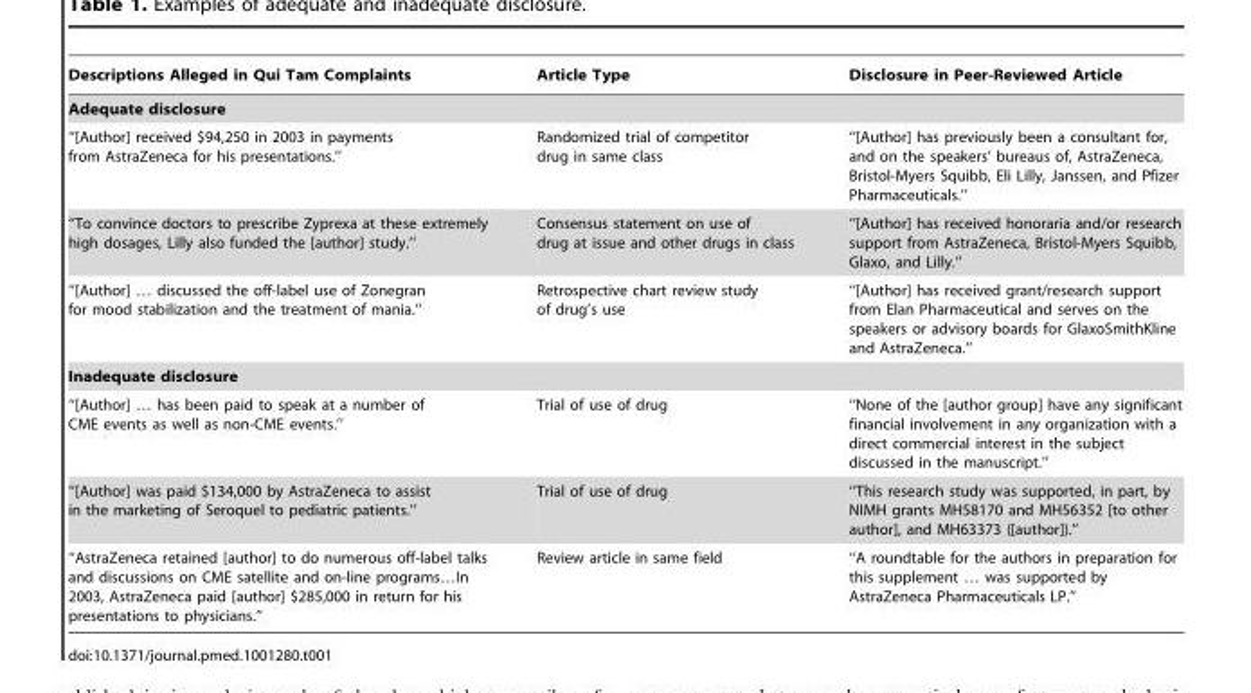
<table><thead><tr><td>Descriptions Alleged in Qui Tam Complaints</td><td>Article Type</td><td>Disclosure in Peer-Reviewed Article</td></tr></thead><tbody><tr><td colspan="3">Adequate disclosure</td></tr><tr><td>‘‘[Author] received $94,250 in 2003 in payments from AstraZeneca for his presentations.’’</td><td>Randomized trial of competitor drug in same class</td><td>‘‘[Author] has previously been a consultant for, and on the speakers’ bureaus of, AstraZeneca, Bristol-Myers Squibb, Eli Lilly, Janssen, and Pfizer Pharmaceuticals.’’</td></tr><tr><td>‘‘To convince doctors to prescribe Zyprexa at these extremely high dosages, Lilly also funded the [author] study.’’</td><td>Consensus statement on use of drug at issue and other drugs in class</td><td>‘‘[Author] has received honoraria and/or research support from AstraZeneca, Bristol-Myers Squibb, Glaxo, and Lilly.’’</td></tr><tr><td>‘‘[Author] … discussed the off-label use of Zonegran for mood stabilization and the treatment of mania.’’</td><td>Retrospective chart review study of drug’s use</td><td>‘‘[Author] has received grant/research support from Elan Pharmaceutical and serves on the speakers or advisory boards for GlaxoSmithKline and AstraZeneca.’’</td></tr><tr><td colspan="3">Inadequate disclosure</td></tr><tr><td>‘‘[Author] … has been paid to speak at a number of CME events as well as non-CME events.’’</td><td>Trial of use of drug</td><td>‘‘None of the [author group] have any significant financial involvement in any organization with a direct commercial interest in the subject discussed in the manuscript.’’</td></tr><tr><td>‘‘[Author] was paid $134,000 by AstraZeneca to assist in the marketing of Seroquel to pediatric patients.’’</td><td>Trial of use of drug</td><td>‘‘This research study was supported, in part, by NIMH grants MH58170 and MH56352 [to other author], and MH63373 ([author]).’’</td></tr><tr><td>‘‘AstraZeneca retained [author] to do numerous off-label talks and discussions on CME satellite and on-line programs…In 2003, AstraZeneca paid [author] $285,000 in return for his presentations to physicians.’’</td><td>Review article in same field</td><td>‘‘A roundtable for the authors in preparation for this supplement … was supported by AstraZeneca Pharmaceuticals LP.’’</td></tr></tbody></table>